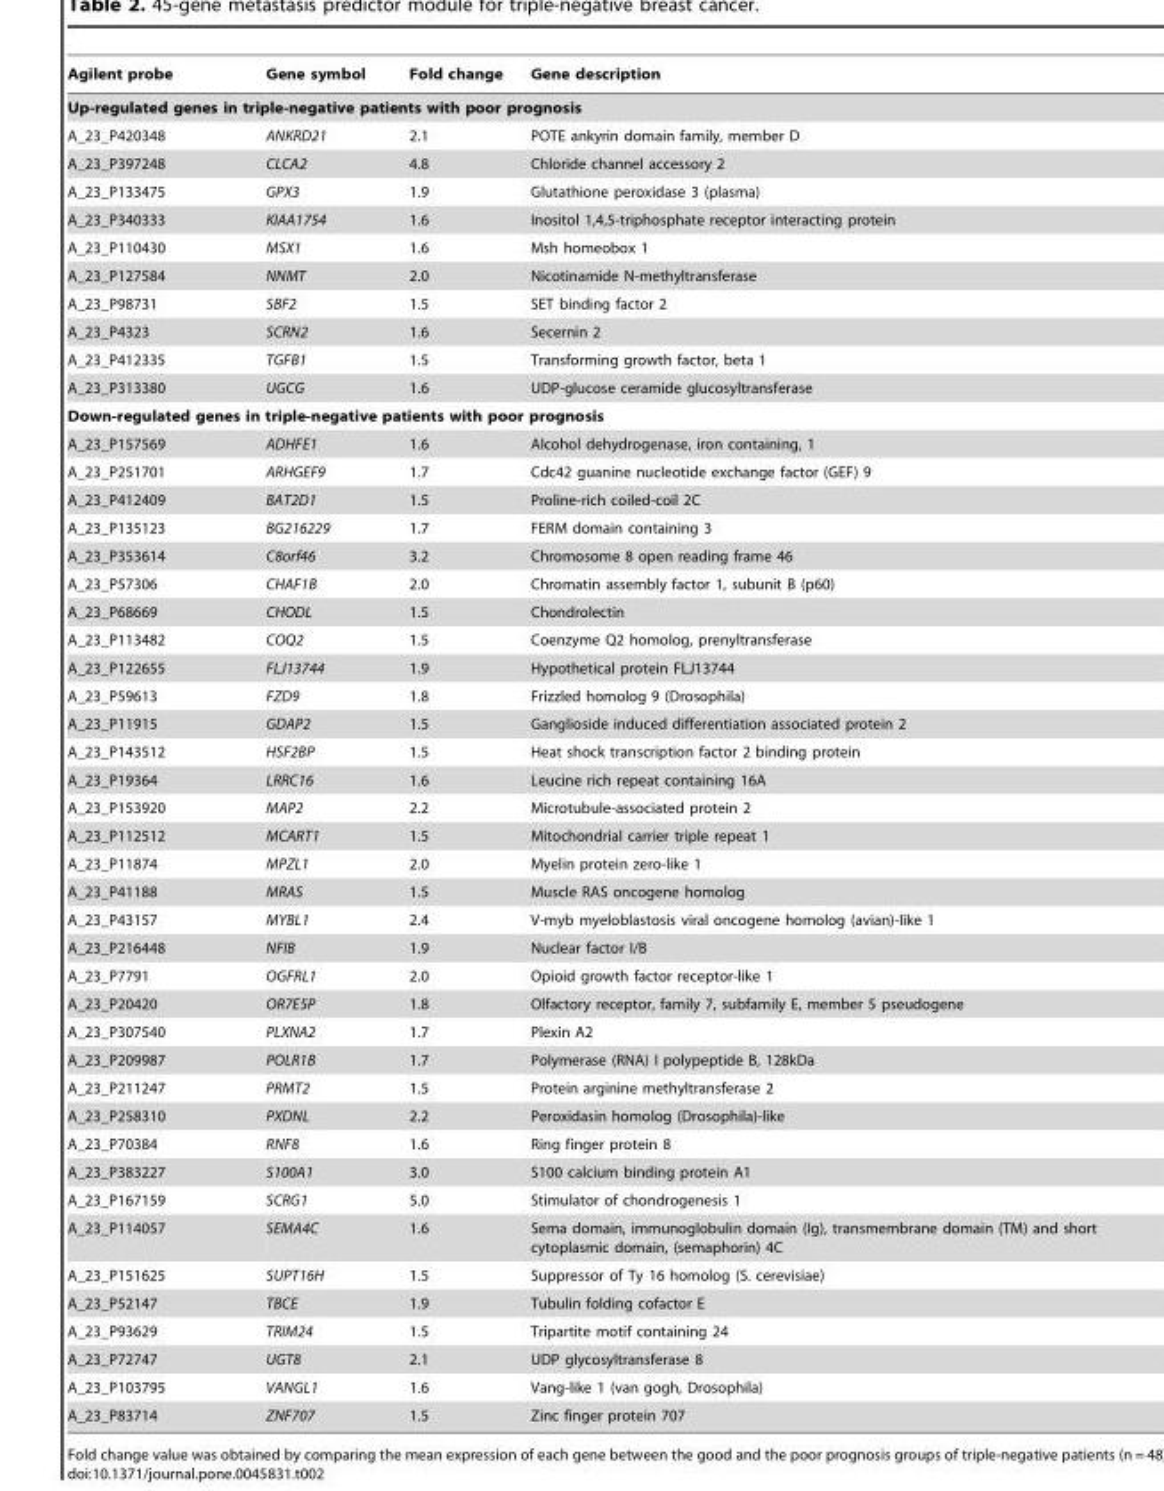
<table><thead><tr><td>Agilent probe</td><td>Gene symbol</td><td>Fold change</td><td>Gene description</td></tr></thead><tbody><tr><td colspan="4">Up-regulated genes in triple-negative patients with poor prognosis</td></tr><tr><td>A_23_P420348</td><td>ANKRD21</td><td>2.1</td><td>POTE ankyrin domain family, member D</td></tr><tr><td>A_23_P397248</td><td>CLCA2</td><td>4.8</td><td>Chloride channel accessory 2</td></tr><tr><td>A_23_P133475</td><td>GPX3</td><td>1.9</td><td>Glutathione peroxidase 3 (plasma)</td></tr><tr><td>A_23_P340333</td><td>KIAA1754</td><td>1.6</td><td>Inositol 1,4,5-triphosphate receptor interacting protein</td></tr><tr><td>A_23_P110430</td><td>MSX1</td><td>1.6</td><td>Msh homeobox 1</td></tr><tr><td>A_23_P127584</td><td>NNMT</td><td>2.0</td><td>Nicotinamide N-methyltransferase</td></tr><tr><td>A_23_P98731</td><td>SBF2</td><td>1.5</td><td>SET binding factor 2</td></tr><tr><td>A_23_P4323</td><td>SCRN2</td><td>1.6</td><td>Secernin 2</td></tr><tr><td>A_23_P412335</td><td>TGFB1</td><td>1.5</td><td>Transforming growth factor, beta 1</td></tr><tr><td>A_23_P313380</td><td>UGCG</td><td>1.6</td><td>UDP-glucose ceramide glucosyltransferase</td></tr><tr><td colspan="4">Down-regulated genes in triple-negative patients with poor prognosis</td></tr><tr><td>A_23_P157569</td><td>ADHFE1</td><td>1.6</td><td>Alcohol dehydrogenase, iron containing, 1</td></tr><tr><td>A_23_P251701</td><td>ARHGEF9</td><td>1.7</td><td>Cdc42 guanine nucleotide exchange factor (GEF) 9</td></tr><tr><td>A_23_P412409</td><td>BAT2D1</td><td>1.5</td><td>Proline-rich coiled-coil 2C</td></tr><tr><td>A_23_P135123</td><td>BG216229</td><td>1.7</td><td>FERM domain containing 3</td></tr><tr><td>A_23_P353614</td><td>C8orf46</td><td>3.2</td><td>Chromosome 8 open reading frame 46</td></tr><tr><td>A_23_P57306</td><td>CHAF1B</td><td>2.0</td><td>Chromatin assembly factor 1, subunit B (p60)</td></tr><tr><td>A_23_P68669</td><td>CHODL</td><td>1.5</td><td>Chondrolectin</td></tr><tr><td>A_23_P113482</td><td>COQ2</td><td>1.5</td><td>Coenzyme Q2 homolog, prenyltransferase</td></tr><tr><td>A_23_P122655</td><td>FLJ13744</td><td>1.9</td><td>Hypothetical protein FLJ13744</td></tr><tr><td>A_23_P59613</td><td>FZD9</td><td>1.8</td><td>Frizzled homolog 9 (Drosophila)</td></tr><tr><td>A_23_P11915</td><td>GDAP2</td><td>1.5</td><td>Ganglioside induced differentiation associated protein 2</td></tr><tr><td>A_23_P143512</td><td>HSF2BP</td><td>1.5</td><td>Heat shock transcription factor 2 binding protein</td></tr><tr><td>A_23_P19364</td><td>LRRC16</td><td>1.6</td><td>Leucine rich repeat containing 16A</td></tr><tr><td>A_23_P153920</td><td>MAP2</td><td>2.2</td><td>Microtubule-associated protein 2</td></tr><tr><td>A_23_P112512</td><td>MCART1</td><td>1.5</td><td>Mitochondrial carrier triple repeat 1</td></tr><tr><td>A_23_P11874</td><td>MPZL1</td><td>2.0</td><td>Myelin protein zero-like 1</td></tr><tr><td>A_23_P41188</td><td>MRAS</td><td>1.5</td><td>Muscle RAS oncogene homolog</td></tr><tr><td>A_23_P43157</td><td>MYBL1</td><td>2.4</td><td>V-myb myeloblastosis viral oncogene homolog (avian)-like 1</td></tr><tr><td>A_23_P216448</td><td>NFIB</td><td>1.9</td><td>Nuclear factor I/B</td></tr><tr><td>A_23_P7791</td><td>OGFRL1</td><td>2.0</td><td>Opioid growth factor receptor-like 1</td></tr><tr><td>A_23_P20420</td><td>OR7E5P</td><td>1.8</td><td>Olfactory receptor, family 7, subfamily E, member 5 pseudogene</td></tr><tr><td>A_23_P307540</td><td>PLXNA2</td><td>1.7</td><td>Plexin A2</td></tr><tr><td>A_23_P209987</td><td>POLR1B</td><td>1.7</td><td>Polymerase (RNA) I polypeptide B, 128kDa</td></tr><tr><td>A_23_P211247</td><td>PRMT2</td><td>1.5</td><td>Protein arginine methyltransferase 2</td></tr><tr><td>A_23_P258310</td><td>PXDNL</td><td>2.2</td><td>Peroxidasin homolog (Drosophila)-like</td></tr><tr><td>A_23_P70384</td><td>RNF8</td><td>1.6</td><td>Ring finger protein 8</td></tr><tr><td>A_23_P383227</td><td>S100A1</td><td>3.0</td><td>S100 calcium binding protein A1</td></tr><tr><td>A_23_P167159</td><td>SCRG1</td><td>5.0</td><td>Stimulator of chondrogenesis 1</td></tr><tr><td>A_23_P114057</td><td>SEMA4C</td><td>1.6</td><td>Sema domain, immunoglobulin domain (Ig), transmembrane domain (TM) and short cytoplasmic domain, (semaphorin) 4C</td></tr><tr><td>A_23_P151625</td><td>SUPT16H</td><td>1.5</td><td>Suppressor of Ty 16 homolog (S. cerevisiae)</td></tr><tr><td>A_23_P52147</td><td>TBCE</td><td>1.9</td><td>Tubulin folding cofactor E</td></tr><tr><td>A_23_P93629</td><td>TRIM24</td><td>1.5</td><td>Tripartite motif containing 24</td></tr><tr><td>A_23_P72747</td><td>UGT8</td><td>2.1</td><td>UDP glycosyltransferase 8</td></tr><tr><td>A_23_P103795</td><td>VANGL1</td><td>1.6</td><td>Vang-like 1 (van gogh, Drosophila)</td></tr><tr><td>A_23_P83714</td><td>ZNF707</td><td>1.5</td><td>Zinc finger protein 707</td></tr></tbody></table>